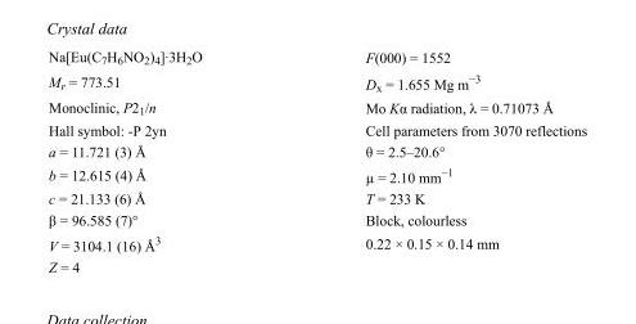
<table><tbody><tr><td>Na[Eu(C<sub>7</sub>H<sub>6</sub>NO<sub>2</sub>)<sub>4</sub>]·3H<sub>2</sub>O</td><td>F(000) = 1552</td></tr><tr><td>M<sub>r</sub> = 773.51</td><td>D<sub>x</sub> = 1.655 Mg m<sup>−3</sup></td></tr><tr><td>Monoclinic, P2<sub>1</sub>/n</td><td>Mo Kα radiation, λ = 0.71073 Å</td></tr><tr><td>Hall symbol: -P 2yn</td><td>Cell parameters from 3070 reflections</td></tr><tr><td>a = 11.721 (3) Å</td><td>θ = 2.5–20.6°</td></tr><tr><td>b = 12.615 (4) Å</td><td>µ = 2.10 mm<sup>−1</sup></td></tr><tr><td>c = 21.133 (6) Å</td><td>T = 233 K</td></tr><tr><td>β = 96.585 (7)°</td><td>Block, colourless</td></tr><tr><td>V = 3104.1 (16) Å<sup>3</sup></td><td>0.22 × 0.15 × 0.14 mm</td></tr><tr><td>Z = 4</td><td></td></tr></tbody></table>